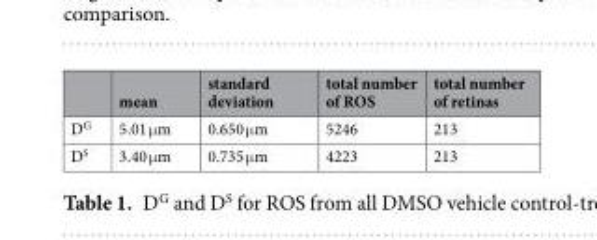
<table><thead><tr><td></td><td>mean</td><td>standard deviation</td><td>total number of ROS</td><td>total number of retinas</td></tr></thead><tbody><tr><td>D<sup>G</sup></td><td>5.01 μm</td><td>0.650 μm</td><td>5246</td><td>213</td></tr><tr><td>D<sup>S</sup></td><td>3.40 μm</td><td>0.735 μm</td><td>4223</td><td>213</td></tr></tbody></table>